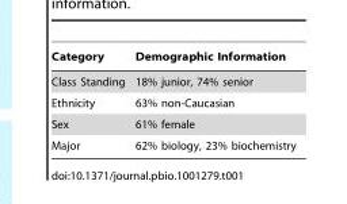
<table><thead><tr><td>Category</td><td>Demographic Information</td></tr></thead><tbody><tr><td>Class Standing</td><td>18% junior, 74% senior</td></tr><tr><td>Ethnicity</td><td>63% non-Caucasian</td></tr><tr><td>Sex</td><td>61% female</td></tr><tr><td>Major</td><td>62% biology, 23% biochemistry</td></tr></tbody></table>